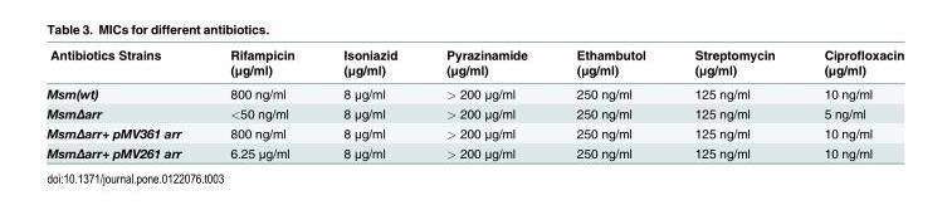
<table><thead><tr><td>Antibiotics Strains</td><td>Rifampicin (μg/ml)</td><td>Isoniazid (μg/ml)</td><td>Pyrazinamide (μg/ml)</td><td>Ethambutol (μg/ml)</td><td>Streptomycin (μg/ml)</td><td>Ciprofloxacin (μg/ml)</td></tr></thead><tbody><tr><td>Msm(wt)</td><td>800 ng/ml</td><td>8 μg/ml</td><td>&gt; 200 μg/ml</td><td>250 ng/ml</td><td>125 ng/ml</td><td>10 ng/ml</td></tr><tr><td>MsmΔarr</td><td>&lt;50 ng/ml</td><td>8 μg/ml</td><td>&gt; 200 μg/ml</td><td>250 ng/ml</td><td>125 ng/ml</td><td>5 ng/ml</td></tr><tr><td>MsmΔarr+ pMV361 arr</td><td>800 ng/ml</td><td>8 μg/ml</td><td>&gt; 200 μg/ml</td><td>250 ng/ml</td><td>125 ng/ml</td><td>10 ng/ml</td></tr><tr><td>MsmΔarr+ pMV261 arr</td><td>6.25 μg/ml</td><td>8 μg/ml</td><td>&gt; 200 μg/ml</td><td>250 ng/ml</td><td>125 ng/ml</td><td>10 ng/ml</td></tr></tbody></table>